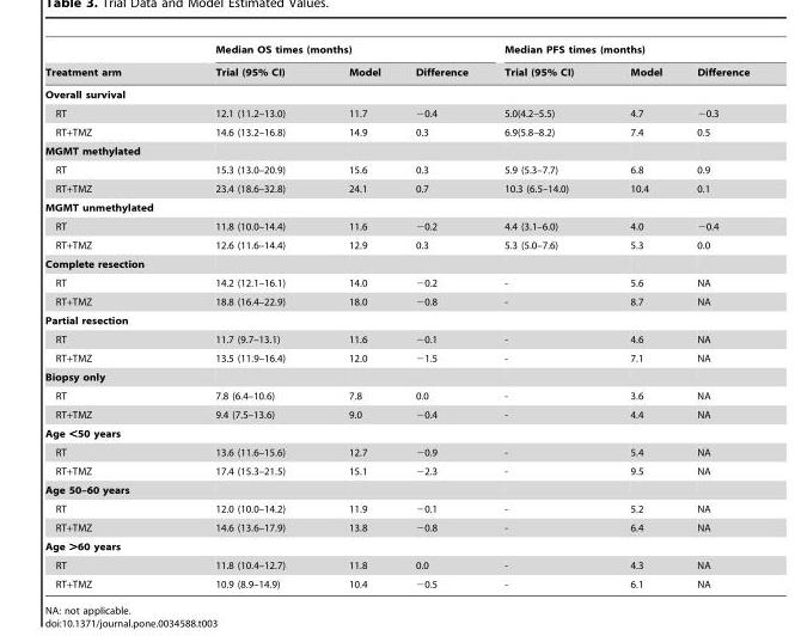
<table><thead><tr><td rowspan="2">Treatment arm</td><td colspan="3">Median OS times (months)</td><td colspan="3">Median PFS times (months)</td></tr><tr><td>Trial (95% CI)</td><td>Model</td><td>Difference</td><td>Trial (95% CI)</td><td>Model</td><td>Difference</td></tr></thead><tbody><tr><td colspan="7">Overall survival</td></tr><tr><td>RT</td><td>12.1 (11.2–13.0)</td><td>11.7</td><td>−0.4</td><td>5.0(4.2–5.5)</td><td>4.7</td><td>−0.3</td></tr><tr><td>RT+TMZ</td><td>14.6 (13.2–16.8)</td><td>14.9</td><td>0.3</td><td>6.9(5.8–8.2)</td><td>7.4</td><td>0.5</td></tr><tr><td colspan="7">MGMT methylated</td></tr><tr><td>RT</td><td>15.3 (13.0–20.9)</td><td>15.6</td><td>0.3</td><td>5.9 (5.3–7.7)</td><td>6.8</td><td>0.9</td></tr><tr><td>RT+TMZ</td><td>23.4 (18.6–32.8)</td><td>24.1</td><td>0.7</td><td>10.3 (6.5–14.0)</td><td>10.4</td><td>0.1</td></tr><tr><td colspan="7">MGMT unmethylated</td></tr><tr><td>RT</td><td>11.8 (10.0–14.4)</td><td>11.6</td><td>−0.2</td><td>4.4 (3.1–6.0)</td><td>4.0</td><td>−0.4</td></tr><tr><td>RT+TMZ</td><td>12.6 (11.6–14.4)</td><td>12.9</td><td>0.3</td><td>5.3 (5.0–7.6)</td><td>5.3</td><td>0.0</td></tr><tr><td colspan="7">Complete resection</td></tr><tr><td>RT</td><td>14.2 (12.1–16.1)</td><td>14.0</td><td>−0.2</td><td>-</td><td>5.6</td><td>NA</td></tr><tr><td>RT+TMZ</td><td>18.8 (16.4–22.9)</td><td>18.0</td><td>−0.8</td><td>-</td><td>8.7</td><td>NA</td></tr><tr><td colspan="7">Partial resection</td></tr><tr><td>RT</td><td>11.7 (9.7–13.1)</td><td>11.6</td><td>−0.1</td><td>-</td><td>4.6</td><td>NA</td></tr><tr><td>RT+TMZ</td><td>13.5 (11.9–16.4)</td><td>12.0</td><td>−1.5</td><td>-</td><td>7.1</td><td>NA</td></tr><tr><td colspan="7">Biopsy only</td></tr><tr><td>RT</td><td>7.8 (6.4–10.6)</td><td>7.8</td><td>0.0</td><td>-</td><td>3.6</td><td>NA</td></tr><tr><td>RT+TMZ</td><td>9.4 (7.5–13.6)</td><td>9.0</td><td>−0.4</td><td>-</td><td>4.4</td><td>NA</td></tr><tr><td colspan="7">Age &lt;50 years</td></tr><tr><td>RT</td><td>13.6 (11.6–15.6)</td><td>12.7</td><td>−0.9</td><td>-</td><td>5.4</td><td>NA</td></tr><tr><td>RT+TMZ</td><td>17.4 (15.3–21.5)</td><td>15.1</td><td>−2.3</td><td>-</td><td>9.5</td><td>NA</td></tr><tr><td colspan="7">Age 50–60 years</td></tr><tr><td>RT</td><td>12.0 (10.0–14.2)</td><td>11.9</td><td>−0.1</td><td>-</td><td>5.2</td><td>NA</td></tr><tr><td>RT+TMZ</td><td>14.6 (13.6–17.9)</td><td>13.8</td><td>−0.8</td><td>-</td><td>6.4</td><td>NA</td></tr><tr><td colspan="7">Age &gt;60 years</td></tr><tr><td>RT</td><td>11.8 (10.4–12.7)</td><td>11.8</td><td>0.0</td><td>-</td><td>4.3</td><td>NA</td></tr><tr><td>RT+TMZ</td><td>10.9 (8.9–14.9)</td><td>10.4</td><td>−0.5</td><td>-</td><td>6.1</td><td>NA</td></tr></tbody></table>